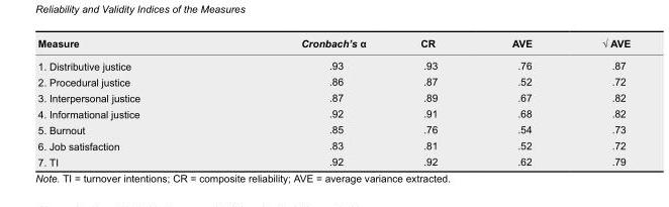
<table><thead><tr><td>Measure</td><td>Cronbach’s α</td><td>CR</td><td>AVE</td><td>√ AVE</td></tr></thead><tbody><tr><td>1. Distributive justice</td><td>.93</td><td>.93</td><td>.76</td><td>.87</td></tr><tr><td>2. Procedural justice</td><td>.86</td><td>.87</td><td>.52</td><td>.72</td></tr><tr><td>3. Interpersonal justice</td><td>.87</td><td>.89</td><td>.67</td><td>.82</td></tr><tr><td>4. Informational justice</td><td>.92</td><td>.91</td><td>.68</td><td>.82</td></tr><tr><td>5. Burnout</td><td>.85</td><td>.76</td><td>.54</td><td>.73</td></tr><tr><td>6. Job satisfaction</td><td>.83</td><td>.81</td><td>.52</td><td>.72</td></tr><tr><td>7. TI</td><td>.92</td><td>.92</td><td>.62</td><td>.79</td></tr></tbody></table>